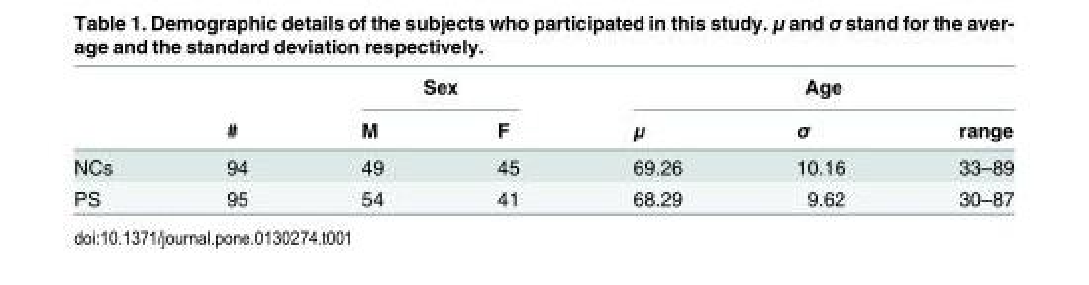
<table><thead><tr><td rowspan="2"></td><td rowspan="2">#</td><td colspan="2">Sex</td><td colspan="3">Age</td></tr><tr><td>M</td><td>F</td><td>μ</td><td>σ</td><td>range</td></tr></thead><tbody><tr><td>NCs</td><td>94</td><td>49</td><td>45</td><td>69.26</td><td>10.16</td><td>33–89</td></tr><tr><td>PS</td><td>95</td><td>54</td><td>41</td><td>68.29</td><td>9.62</td><td>30–87</td></tr></tbody></table>